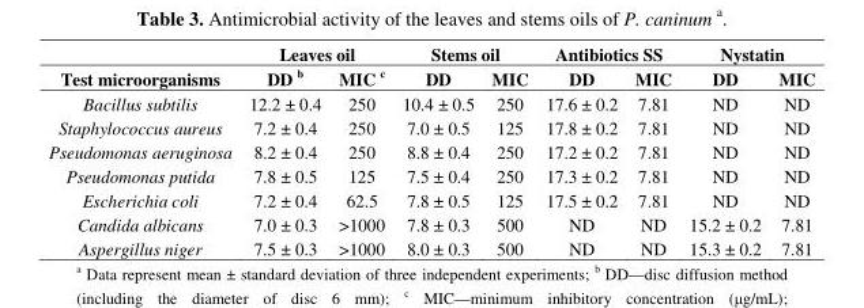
<table><thead><tr><td rowspan="2">Test microorganisms</td><td colspan="2">Leaves oil</td><td colspan="2">Stems oil</td><td colspan="2">Antibiotics SS</td><td colspan="2">Nystatin</td></tr><tr><td>DD b</td><td>MIC c</td><td>DD</td><td>MIC</td><td>DD</td><td>MIC</td><td>DD</td><td>MIC</td></tr></thead><tbody><tr><td>Bacillus subtilis</td><td>12.2 ± 0.4</td><td>250</td><td>10.4 ± 0.5</td><td>250</td><td>17.6 ± 0.2</td><td>7.81</td><td>ND</td><td>ND</td></tr><tr><td>Staphylococcus aureus</td><td>7.2 ± 0.4</td><td>250</td><td>7.0 ± 0.5</td><td>125</td><td>17.8 ± 0.2</td><td>7.81</td><td>ND</td><td>ND</td></tr><tr><td>Pseudomonas aeruginosa</td><td>8.2 ± 0.4</td><td>250</td><td>8.8 ± 0.4</td><td>250</td><td>17.2 ± 0.2</td><td>7.81</td><td>ND</td><td>ND</td></tr><tr><td>Pseudomonas putida</td><td>7.8 ± 0.5</td><td>125</td><td>7.5 ± 0.4</td><td>250</td><td>17.3 ± 0.2</td><td>7.81</td><td>ND</td><td>ND</td></tr><tr><td>Escherichia coli</td><td>7.2 ± 0.4</td><td>62.5</td><td>7.8 ± 0.5</td><td>125</td><td>17.5 ± 0.2</td><td>7.81</td><td>ND</td><td>ND</td></tr><tr><td>Candida albicans</td><td>7.0 ± 0.3</td><td>&gt;1000</td><td>7.8 ± 0.3</td><td>500</td><td>ND</td><td>ND</td><td>15.2 ± 0.2</td><td>7.81</td></tr><tr><td>Aspergillus niger</td><td>7.5 ± 0.3</td><td>&gt;1000</td><td>8.0 ± 0.3</td><td>500</td><td>ND</td><td>ND</td><td>15.3 ± 0.2</td><td>7.81</td></tr></tbody></table>